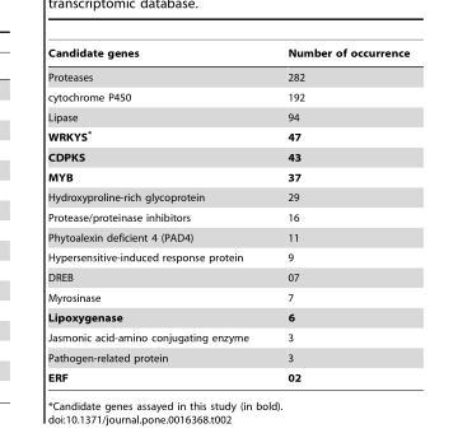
<table><thead><tr><td>Candidate genes</td><td>Number of occurrence</td></tr></thead><tbody><tr><td>Proteases</td><td>282</td></tr><tr><td>cytochrome P450</td><td>192</td></tr><tr><td>Lipase</td><td>94</td></tr><tr><td>WRKYS*</td><td>47</td></tr><tr><td>CDPKS</td><td>43</td></tr><tr><td>MYB</td><td>37</td></tr><tr><td>Hydroxyproline-rich glycoprotein</td><td>29</td></tr><tr><td>Protease/proteinase inhibitors</td><td>16</td></tr><tr><td>Phytoalexin deficient 4 (PAD4)</td><td>11</td></tr><tr><td>Hypersensitive-induced response protein</td><td>9</td></tr><tr><td>DREB</td><td>07</td></tr><tr><td>Myrosinase</td><td>7</td></tr><tr><td>Lipoxygenase</td><td>6</td></tr><tr><td>Jasmonic acid-amino conjugating enzyme</td><td>3</td></tr><tr><td>Pathogen-related protein</td><td>3</td></tr><tr><td>ERF</td><td>02</td></tr></tbody></table>